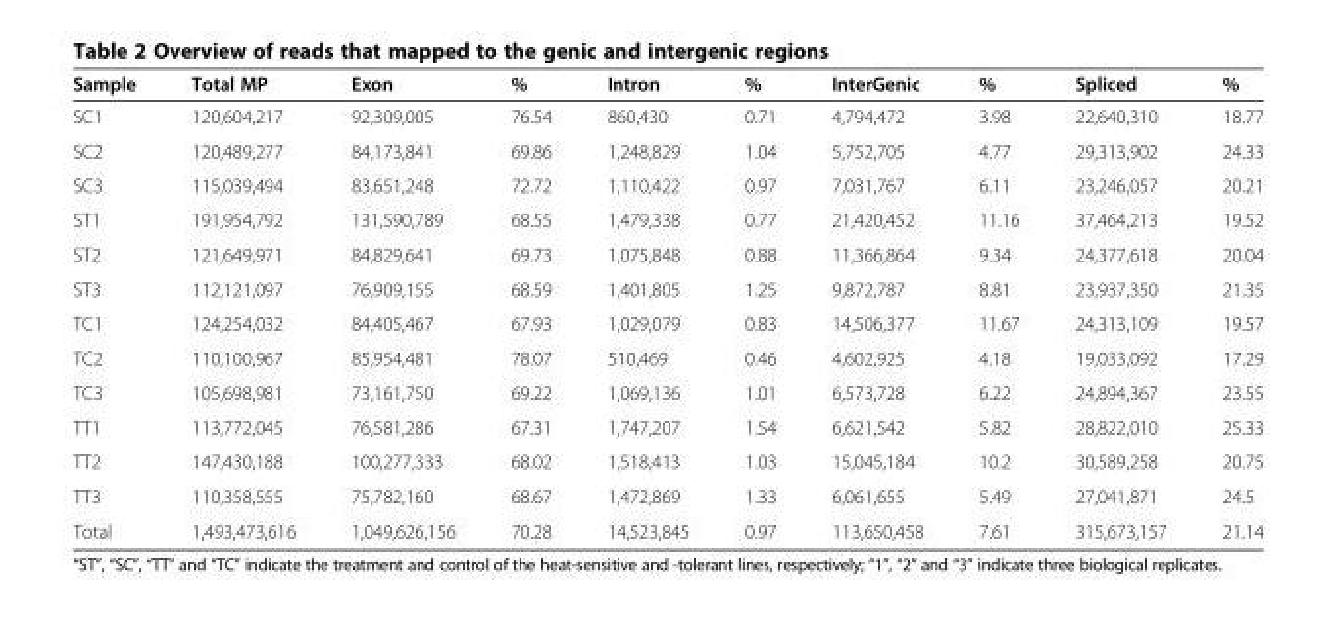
<table><thead><tr><td>Sample</td><td>Total MP</td><td>Exon</td><td>%</td><td>Intron</td><td>%</td><td>InterGenic</td><td>%</td><td>Spliced</td><td>%</td></tr></thead><tbody><tr><td>SC1</td><td>120,604,217</td><td>92,309,005</td><td>76.54</td><td>860,430</td><td>0.71</td><td>4,794,472</td><td>3.98</td><td>22,640,310</td><td>18.77</td></tr><tr><td>SC2</td><td>120,489,277</td><td>84,173,841</td><td>69.86</td><td>1,248,829</td><td>1.04</td><td>5,752,705</td><td>4.77</td><td>29,313,902</td><td>24.33</td></tr><tr><td>SC3</td><td>115,039,494</td><td>83,651,248</td><td>72.72</td><td>1,110,422</td><td>0.97</td><td>7,031,767</td><td>6.11</td><td>23,246,057</td><td>20.21</td></tr><tr><td>ST1</td><td>191,954,792</td><td>131,590,789</td><td>68.55</td><td>1,479,338</td><td>0.77</td><td>21,420,452</td><td>11.16</td><td>37,464,213</td><td>19.52</td></tr><tr><td>ST2</td><td>121,649,971</td><td>84,829,641</td><td>69.73</td><td>1,075,848</td><td>0.88</td><td>11,366,864</td><td>9.34</td><td>24,377,618</td><td>20.04</td></tr><tr><td>ST3</td><td>112,121,097</td><td>76,909,155</td><td>68.59</td><td>1,401,805</td><td>1.25</td><td>9,872,787</td><td>8.81</td><td>23,937,350</td><td>21.35</td></tr><tr><td>TC1</td><td>124,254,032</td><td>84,405,467</td><td>67.93</td><td>1,029,079</td><td>0.83</td><td>14,506,377</td><td>11.67</td><td>24,313,109</td><td>19.57</td></tr><tr><td>TC2</td><td>110,100,967</td><td>85,954,481</td><td>78.07</td><td>510,469</td><td>0.46</td><td>4,602,925</td><td>4.18</td><td>19,033,092</td><td>17.29</td></tr><tr><td>TC3</td><td>105,698,981</td><td>73,161,750</td><td>69.22</td><td>1,069,136</td><td>1.01</td><td>6,573,728</td><td>6.22</td><td>24,894,367</td><td>23.55</td></tr><tr><td>TT1</td><td>113,772,045</td><td>76,581,286</td><td>67.31</td><td>1,747,207</td><td>1.54</td><td>6,621,542</td><td>5.82</td><td>28,822,010</td><td>25.33</td></tr><tr><td>TT2</td><td>147,430,188</td><td>100,277,333</td><td>68.02</td><td>1,518,413</td><td>1.03</td><td>15,045,184</td><td>10.2</td><td>30,589,258</td><td>20.75</td></tr><tr><td>TT3</td><td>110,358,555</td><td>75,782,160</td><td>68.67</td><td>1,472,869</td><td>1.33</td><td>6,061,655</td><td>5.49</td><td>27,041,871</td><td>24.5</td></tr><tr><td>Total</td><td>1,493,473,616</td><td>1,049,626,156</td><td>70.28</td><td>14,523,845</td><td>0.97</td><td>113,650,458</td><td>7.61</td><td>315,673,157</td><td>21.14</td></tr></tbody></table>